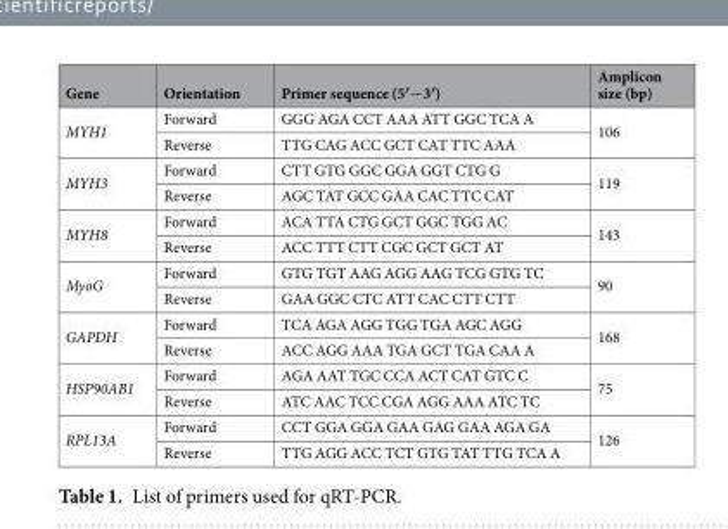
<table><thead><tr><td>Gene</td><td>Orientation</td><td>Primer sequence (5′−3′)</td><td>Amplicon size (bp)</td></tr></thead><tbody><tr><td rowspan="2">MYH1</td><td>Forward</td><td>GGG AGA CCT AAA ATT GGC TCA A</td><td rowspan="2">106</td></tr><tr><td>Reverse</td><td>TTG CAG ACC GCT CAT TTC AAA</td></tr><tr><td rowspan="2">MYH3</td><td>Forward</td><td>CTT GTG GGC GGA GGT CTG G</td><td rowspan="2">119</td></tr><tr><td>Reverse</td><td>AGC TAT GCC GAA CAC TTC CAT</td></tr><tr><td rowspan="2">MYH8</td><td>Forward</td><td>ACA TTA CTG GCT GGC TGG AC</td><td rowspan="2">143</td></tr><tr><td>Reverse</td><td>ACC TTT CTT CGC GCT GCT AT</td></tr><tr><td rowspan="2">MyoG</td><td>Forward</td><td>GTG TGT AAG AGG AAG TCG GTG TC</td><td rowspan="2">90</td></tr><tr><td>Reverse</td><td>GAA GGC CTC ATT CAC CTT CTT</td></tr><tr><td rowspan="2">GAPDH</td><td>Forward</td><td>TCA AGA AGG TGG TGA AGC AGG</td><td rowspan="2">168</td></tr><tr><td>Reverse</td><td>ACC AGG AAA TGA GCT TGA CAA A</td></tr><tr><td rowspan="2">HSP90AB1</td><td>Forward</td><td>AGA AAT TGC CCA ACT CAT GTC C</td><td rowspan="2">75</td></tr><tr><td>Reverse</td><td>ATC AAC TCC CGA AGG AAA ATC TC</td></tr><tr><td rowspan="2">RPL13A</td><td>Forward</td><td>CCT GGA GGA GAA GAG GAA AGA GA</td><td rowspan="2">126</td></tr><tr><td>Reverse</td><td>TTG AGG ACC TCT GTG TAT TTG TCA A</td></tr></tbody></table>